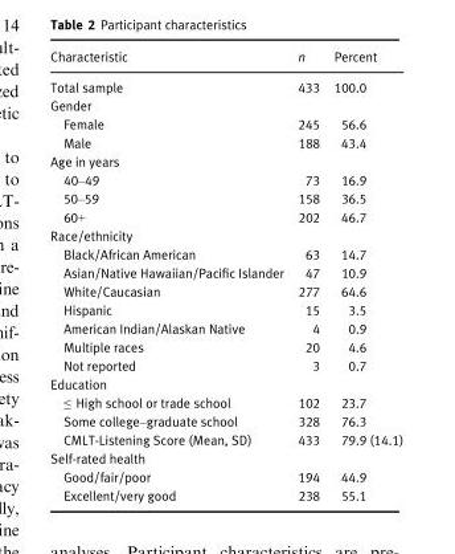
<table><thead><tr><td>Characteristic</td><td>n</td><td>Percent</td></tr></thead><tbody><tr><td>Total sample</td><td>433</td><td>100.0</td></tr><tr><td colspan="3">Gender</td></tr><tr><td>Female</td><td>245</td><td>56.6</td></tr><tr><td>Male</td><td>188</td><td>43.4</td></tr><tr><td colspan="3">Age in years</td></tr><tr><td>40–49</td><td>73</td><td>16.9</td></tr><tr><td>50–59</td><td>158</td><td>36.5</td></tr><tr><td>60+</td><td>202</td><td>46.7</td></tr><tr><td colspan="3">Race/ethnicity</td></tr><tr><td>Black/African American</td><td>63</td><td>14.7</td></tr><tr><td>Asian/Native Hawaiian/Pacific Islander</td><td>47</td><td>10.9</td></tr><tr><td>White/Caucasian</td><td>277</td><td>64.6</td></tr><tr><td>Hispanic</td><td>15</td><td>3.5</td></tr><tr><td>American Indian/Alaskan Native</td><td>4</td><td>0.9</td></tr><tr><td>Multiple races</td><td>20</td><td>4.6</td></tr><tr><td>Not reported</td><td>3</td><td>0.7</td></tr><tr><td colspan="3">Education</td></tr><tr><td>≤ High school or trade school</td><td>102</td><td>23.7</td></tr><tr><td>Some college–graduate school</td><td>328</td><td>76.3</td></tr><tr><td>CMLT-Listening Score (Mean, SD)</td><td>433</td><td>79.9 (14.1)</td></tr><tr><td colspan="3">Self-rated health</td></tr><tr><td>Good/fair/poor</td><td>194</td><td>44.9</td></tr><tr><td>Excellent/very good</td><td>238</td><td>55.1</td></tr></tbody></table>